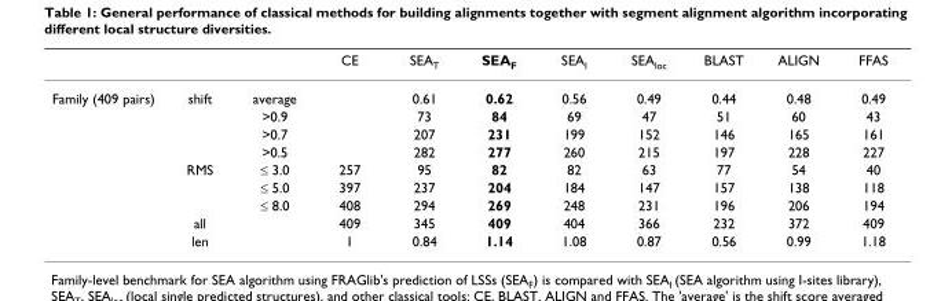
<table><thead><tr><td></td><td></td><td></td><td>CE</td><td>SEAT</td><td>SEAF</td><td>SEAI</td><td>SEAloc</td><td>BLAST</td><td>ALIGN</td><td>FFAS</td></tr></thead><tbody><tr><td rowspan="9">Family (409 pairs)</td><td>shift</td><td>average</td><td></td><td>0.61</td><td>0.62</td><td>0.56</td><td>0.49</td><td>0.44</td><td>0.48</td><td>0.49</td></tr><tr><td></td><td>&gt;0.9</td><td></td><td>73</td><td>84</td><td>69</td><td>47</td><td>51</td><td>60</td><td>43</td></tr><tr><td></td><td>&gt;0.7</td><td></td><td>207</td><td>231</td><td>199</td><td>152</td><td>146</td><td>165</td><td>161</td></tr><tr><td></td><td>&gt;0.5</td><td></td><td>282</td><td>277</td><td>260</td><td>215</td><td>197</td><td>228</td><td>227</td></tr><tr><td>RMS</td><td>≤ 3.0</td><td>257</td><td>95</td><td>82</td><td>82</td><td>63</td><td>77</td><td>54</td><td>40</td></tr><tr><td></td><td>≤ 5.0</td><td>397</td><td>237</td><td>204</td><td>184</td><td>147</td><td>157</td><td>138</td><td>118</td></tr><tr><td></td><td>≤ 8.0</td><td>408</td><td>294</td><td>269</td><td>248</td><td>231</td><td>196</td><td>206</td><td>194</td></tr><tr><td>all</td><td></td><td>409</td><td>345</td><td>409</td><td>404</td><td>366</td><td>232</td><td>372</td><td>409</td></tr><tr><td>len</td><td></td><td>1</td><td>0.84</td><td>1.14</td><td>1.08</td><td>0.87</td><td>0.56</td><td>0.99</td><td>1.18</td></tr></tbody></table>